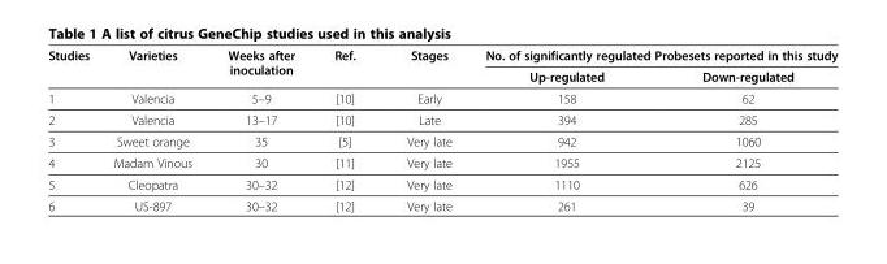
<table><thead><tr><td rowspan="2">Studies</td><td rowspan="2">Varieties</td><td rowspan="2">Weeks after inoculation</td><td rowspan="2">Ref.</td><td rowspan="2">Stages</td><td colspan="2">No. of significantly regulated Probesets reported in this study</td></tr><tr><td>Up-regulated</td><td>Down-regulated</td></tr></thead><tbody><tr><td>1</td><td>Valencia</td><td>5–9</td><td>[10]</td><td>Early</td><td>158</td><td>62</td></tr><tr><td>2</td><td>Valencia</td><td>13–17</td><td>[10]</td><td>Late</td><td>394</td><td>285</td></tr><tr><td>3</td><td>Sweet orange</td><td>35</td><td>[5]</td><td>Very late</td><td>942</td><td>1060</td></tr><tr><td>4</td><td>Madam Vinous</td><td>30</td><td>[11]</td><td>Very late</td><td>1955</td><td>2125</td></tr><tr><td>5</td><td>Cleopatra</td><td>30–32</td><td>[12]</td><td>Very late</td><td>1110</td><td>626</td></tr><tr><td>6</td><td>US-897</td><td>30–32</td><td>[12]</td><td>Very late</td><td>261</td><td>39</td></tr></tbody></table>